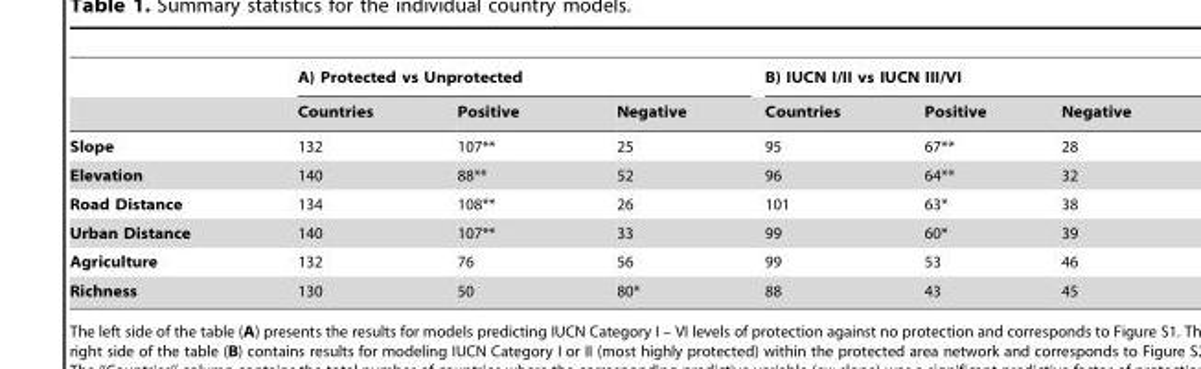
<table><thead><tr><td rowspan="2"></td><td colspan="3">A) Protected vs Unprotected</td><td colspan="3">B) IUCN I/II vs IUCN III/VI</td></tr><tr><td>Countries</td><td>Positive</td><td>Negative</td><td>Countries</td><td>Positive</td><td>Negative</td></tr></thead><tbody><tr><td>Slope</td><td>132</td><td>107**</td><td>25</td><td>95</td><td>67**</td><td>28</td></tr><tr><td>Elevation</td><td>140</td><td>88**</td><td>52</td><td>96</td><td>64**</td><td>32</td></tr><tr><td>Road Distance</td><td>134</td><td>108**</td><td>26</td><td>101</td><td>63*</td><td>38</td></tr><tr><td>Urban Distance</td><td>140</td><td>107**</td><td>33</td><td>99</td><td>60*</td><td>39</td></tr><tr><td>Agriculture</td><td>132</td><td>76</td><td>56</td><td>99</td><td>53</td><td>46</td></tr><tr><td>Richness</td><td>130</td><td>50</td><td>80*</td><td>88</td><td>43</td><td>45</td></tr></tbody></table>